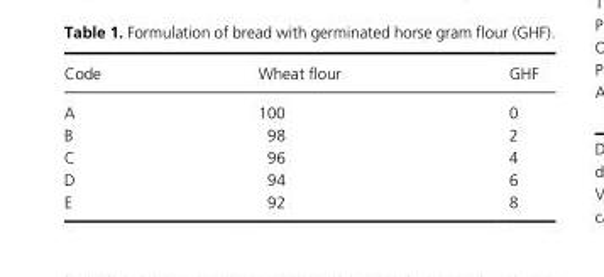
<table><thead><tr><td>Code</td><td>Wheat flour</td><td>GHF</td></tr></thead><tbody><tr><td>A</td><td>100</td><td>0</td></tr><tr><td>B</td><td>98</td><td>2</td></tr><tr><td>C</td><td>96</td><td>4</td></tr><tr><td>D</td><td>94</td><td>6</td></tr><tr><td>E</td><td>92</td><td>8</td></tr></tbody></table>